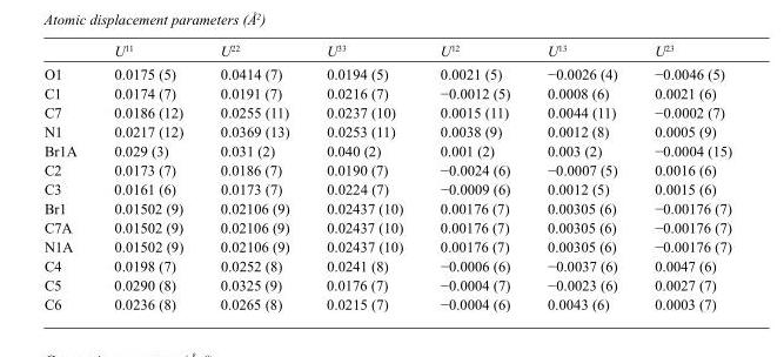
<table><thead><tr><td></td><td>U<sup>11</sup></td><td>U<sup>22</sup></td><td>U<sup>33</sup></td><td>U<sup>12</sup></td><td>U<sup>13</sup></td><td>U<sup>23</sup></td></tr></thead><tbody><tr><td>O1</td><td>0.0175 (5)</td><td>0.0414 (7)</td><td>0.0194 (5)</td><td>0.0021 (5)</td><td>−0.0026 (4)</td><td>−0.0046 (5)</td></tr><tr><td>C1</td><td>0.0174 (7)</td><td>0.0191 (7)</td><td>0.0216 (7)</td><td>−0.0012 (5)</td><td>0.0008 (6)</td><td>0.0021 (6)</td></tr><tr><td>C7</td><td>0.0186 (12)</td><td>0.0255 (11)</td><td>0.0237 (10)</td><td>0.0015 (11)</td><td>0.0044 (11)</td><td>−0.0002 (7)</td></tr><tr><td>N1</td><td>0.0217 (12)</td><td>0.0369 (13)</td><td>0.0253 (11)</td><td>0.0038 (9)</td><td>0.0012 (8)</td><td>0.0005 (9)</td></tr><tr><td>Br1A</td><td>0.029 (3)</td><td>0.031 (2)</td><td>0.040 (2)</td><td>0.001 (2)</td><td>0.003 (2)</td><td>−0.0004 (15)</td></tr><tr><td>C2</td><td>0.0173 (7)</td><td>0.0186 (7)</td><td>0.0190 (7)</td><td>−0.0024 (6)</td><td>−0.0007 (5)</td><td>0.0016 (6)</td></tr><tr><td>C3</td><td>0.0161 (6)</td><td>0.0173 (7)</td><td>0.0224 (7)</td><td>−0.0009 (6)</td><td>0.0012 (5)</td><td>0.0015 (6)</td></tr><tr><td>Br1</td><td>0.01502 (9)</td><td>0.02106 (9)</td><td>0.02437 (10)</td><td>0.00176 (7)</td><td>0.00305 (6)</td><td>−0.00176 (7)</td></tr><tr><td>C7A</td><td>0.01502 (9)</td><td>0.02106 (9)</td><td>0.02437 (10)</td><td>0.00176 (7)</td><td>0.00305 (6)</td><td>−0.00176 (7)</td></tr><tr><td>N1A</td><td>0.01502 (9)</td><td>0.02106 (9)</td><td>0.02437 (10)</td><td>0.00176 (7)</td><td>0.00305 (6)</td><td>−0.00176 (7)</td></tr><tr><td>C4</td><td>0.0198 (7)</td><td>0.0252 (8)</td><td>0.0241 (8)</td><td>−0.0006 (6)</td><td>−0.0037 (6)</td><td>0.0047 (6)</td></tr><tr><td>C5</td><td>0.0290 (8)</td><td>0.0325 (9)</td><td>0.0176 (7)</td><td>−0.0004 (7)</td><td>−0.0023 (6)</td><td>0.0027 (7)</td></tr><tr><td>C6</td><td>0.0236 (8)</td><td>0.0265 (8)</td><td>0.0215 (7)</td><td>−0.0004 (6)</td><td>0.0043 (6)</td><td>0.0003 (7)</td></tr></tbody></table>